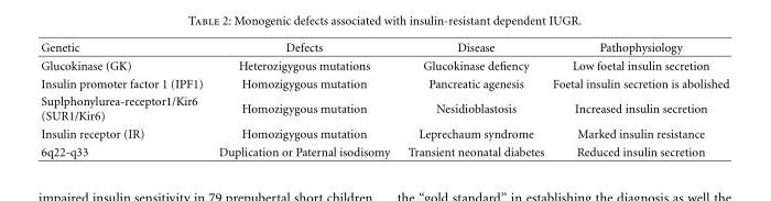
<table><thead><tr><td>Genetic</td><td>Defects</td><td>Disease</td><td>Pathophysiology</td></tr></thead><tbody><tr><td>Glucokinase (GK)</td><td>Heterozigygous mutations</td><td>Glucokinase defiency</td><td>Low foetal insulin secretion</td></tr><tr><td>Insulin promoter factor 1 (IPF1)</td><td>Homozigygous mutation</td><td>Pancreatic agenesis</td><td>Foetal insulin secretion is abolished</td></tr><tr><td>Suplphonylurea-receptor1/Kir6 (SUR1/Kir6)</td><td>Homozigygous mutation</td><td>Nesidioblastosis</td><td>Increased insulin secretion</td></tr><tr><td>Insulin receptor (IR)</td><td>Homozigygous mutation</td><td>Leprechaum syndrome</td><td>Marked insulin resistance</td></tr><tr><td>6q22-q33</td><td>Duplication or Paternal isodisomy</td><td>Transient neonatal diabetes</td><td>Reduced insulin secretion</td></tr></tbody></table>